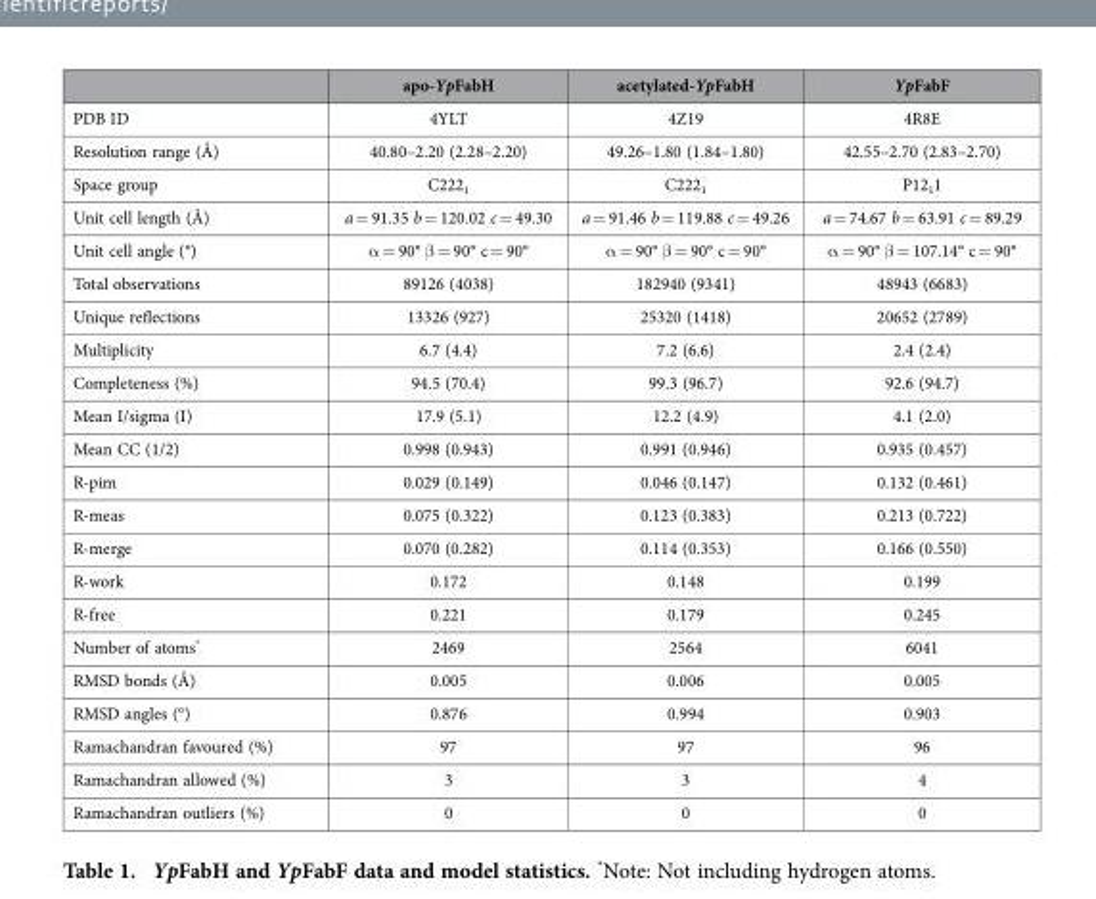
<table><thead><tr><td></td><td>apo-YpFabH</td><td>acetylated-YpFabH</td><td>YpFabF</td></tr></thead><tbody><tr><td>PDB ID</td><td>4YLT</td><td>4Z19</td><td>4R8E</td></tr><tr><td>Resolution range (Å)</td><td>40.80–2.20 (2.28–2.20)</td><td>49.26–1.80 (1.84–1.80)</td><td>42.55–2.70 (2.83–2.70)</td></tr><tr><td>Space group</td><td>C222<sub>1</sub></td><td>C222<sub>1</sub></td><td>P12<sub>1</sub>1</td></tr><tr><td>Unit cell length (Å)</td><td>a = 91.35 b = 120.02 c = 49.30</td><td>a = 91.46 b = 119.88 c = 49.26</td><td>a = 74.67 b = 63.91 c = 89.29</td></tr><tr><td>Unit cell angle (°)</td><td>α = 90° β = 90° c = 90°</td><td>α = 90° β = 90° c = 90°</td><td>α = 90° β = 107.14° c = 90°</td></tr><tr><td>Total observations</td><td>89126 (4038)</td><td>182940 (9341)</td><td>48943 (6683)</td></tr><tr><td>Unique reflections</td><td>13326 (927)</td><td>25320 (1418)</td><td>20652 (2789)</td></tr><tr><td>Multiplicity</td><td>6.7 (4.4)</td><td>7.2 (6.6)</td><td>2.4 (2.4)</td></tr><tr><td>Completeness (%)</td><td>94.5 (70.4)</td><td>99.3 (96.7)</td><td>92.6 (94.7)</td></tr><tr><td>Mean I/sigma (I)</td><td>17.9 (5.1)</td><td>12.2 (4.9)</td><td>4.1 (2.0)</td></tr><tr><td>Mean CC (1/2)</td><td>0.998 (0.943)</td><td>0.991 (0.946)</td><td>0.935 (0.457)</td></tr><tr><td>R-pim</td><td>0.029 (0.149)</td><td>0.046 (0.147)</td><td>0.132 (0.461)</td></tr><tr><td>R-meas</td><td>0.075 (0.322)</td><td>0.123 (0.383)</td><td>0.213 (0.722)</td></tr><tr><td>R-merge</td><td>0.070 (0.282)</td><td>0.114 (0.353)</td><td>0.166 (0.550)</td></tr><tr><td>R-work</td><td>0.172</td><td>0.148</td><td>0.199</td></tr><tr><td>R-free</td><td>0.221</td><td>0.179</td><td>0.245</td></tr><tr><td>Number of atoms*</td><td>2469</td><td>2564</td><td>6041</td></tr><tr><td>RMSD bonds (Å)</td><td>0.005</td><td>0.006</td><td>0.005</td></tr><tr><td>RMSD angles (°)</td><td>0.876</td><td>0.994</td><td>0.903</td></tr><tr><td>Ramachandran favoured (%)</td><td>97</td><td>97</td><td>96</td></tr><tr><td>Ramachandran allowed (%)</td><td>3</td><td>3</td><td>4</td></tr><tr><td>Ramachandran outliers (%)</td><td>0</td><td>0</td><td>0</td></tr></tbody></table>